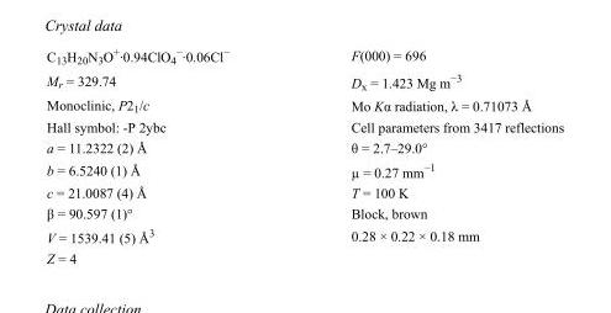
<table><tbody><tr><td>C<sub>13</sub>H<sub>20</sub>N<sub>3</sub>O<sup>+</sup>·0.94ClO<sub>4</sub> <sup>−</sup>·0.06Cl<sup>−</sup></td><td>F(000) = 696</td></tr><tr><td>M<sub>r</sub> = 329.74</td><td>D<sub>x</sub> = 1.423 Mg m<sup>−3</sup></td></tr><tr><td>Monoclinic, P2<sub>1</sub>/c</td><td>Mo Kα radiation, λ = 0.71073 Å</td></tr><tr><td>Hall symbol: -P 2ybc</td><td>Cell parameters from 3417 reflections</td></tr><tr><td>a = 11.2322 (2) Å</td><td>θ = 2.7–29.0°</td></tr><tr><td>b = 6.5240 (1) Å</td><td>µ = 0.27 mm<sup>−1</sup></td></tr><tr><td>c = 21.0087 (4) Å</td><td>T = 100 K</td></tr><tr><td>β = 90.597 (1)°</td><td>Block, brown</td></tr><tr><td>V = 1539.41 (5) Å<sup>3</sup></td><td>0.28 × 0.22 × 0.18 mm</td></tr><tr><td>Z = 4</td><td></td></tr></tbody></table>